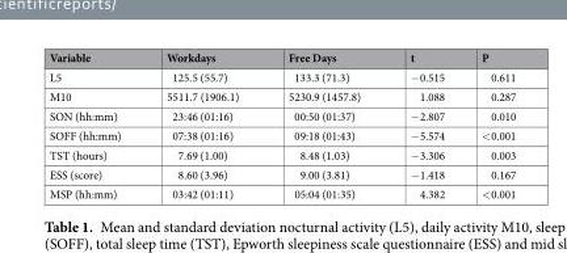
<table><thead><tr><td>Variable</td><td>Workdays</td><td>Free Days</td><td>t</td><td>P</td></tr></thead><tbody><tr><td>L5</td><td>125.5 (55.7)</td><td>133.3 (71.3)</td><td>−0.515</td><td>0.611</td></tr><tr><td>M10</td><td>5511.7 (1906.1)</td><td>5230.9 (1457.8)</td><td>1.088</td><td>0.287</td></tr><tr><td>SON (hh:mm)</td><td>23:46 (01:16)</td><td>00:50 (01:37)</td><td>−2.807</td><td>0.010</td></tr><tr><td>SOFF (hh:mm)</td><td>07:38 (01:16)</td><td>09:18 (01:43)</td><td>−5.574</td><td>&lt;0.001</td></tr><tr><td>TST (hours)</td><td>7.69 (1.00)</td><td>8.48 (1.03)</td><td>−3.306</td><td>0.003</td></tr><tr><td>ESS (score)</td><td>8.60 (3.96)</td><td>9.00 (3.81)</td><td>−1.418</td><td>0.167</td></tr><tr><td>MSP (hh:mm)</td><td>03:42 (01:11)</td><td>05:04 (01:35)</td><td>4.382</td><td>&lt;0.001</td></tr></tbody></table>